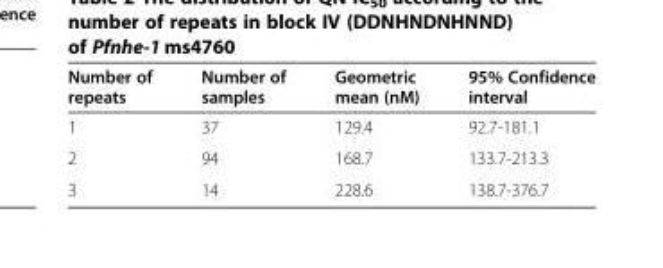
<table><thead><tr><td>Number of repeats</td><td>Number of samples</td><td>Geometric mean (nM)</td><td>95% Confidence interval</td></tr></thead><tbody><tr><td>1</td><td>37</td><td>129.4</td><td>92.7-181.1</td></tr><tr><td>2</td><td>94</td><td>168.7</td><td>133.7-213.3</td></tr><tr><td>3</td><td>14</td><td>228.6</td><td>138.7-376.7</td></tr></tbody></table>